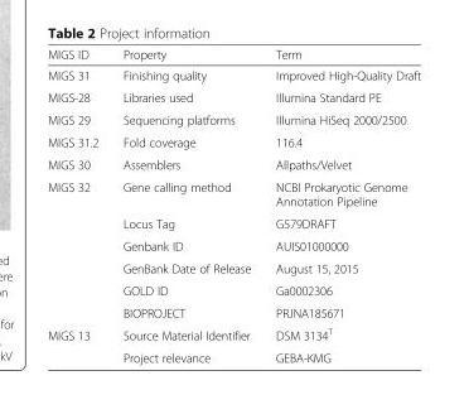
<table><thead><tr><td>MIGS ID</td><td>Property</td><td>Term</td></tr></thead><tbody><tr><td>MIGS 31</td><td>Finishing quality</td><td>Improved High-Quality Draft</td></tr><tr><td>MIGS-28</td><td>Libraries used</td><td>Illumina Standard PE</td></tr><tr><td>MIGS 29</td><td>Sequencing platforms</td><td>Illumina HiSeq 2000/2500</td></tr><tr><td>MIGS 31.2</td><td>Fold coverage</td><td>116.4</td></tr><tr><td>MIGS 30</td><td>Assemblers</td><td>Allpaths/Velvet</td></tr><tr><td rowspan="6">MIGS 32</td><td>Gene calling method</td><td>NCBI Prokaryotic Genome Annotation Pipeline</td></tr><tr><td>Locus Tag</td><td>G579DRAFT</td></tr><tr><td>Genbank ID</td><td>AUIS01000000</td></tr><tr><td>GenBank Date of Release</td><td>August 15, 2015</td></tr><tr><td>GOLD ID</td><td>Ga0002306</td></tr><tr><td>BIOPROJECT</td><td>PRJNA185671</td></tr><tr><td rowspan="2">MIGS 13</td><td>Source Material Identifier</td><td>DSM 3134<sup>T</sup></td></tr><tr><td>Project relevance</td><td>GEBA-KMG</td></tr></tbody></table>